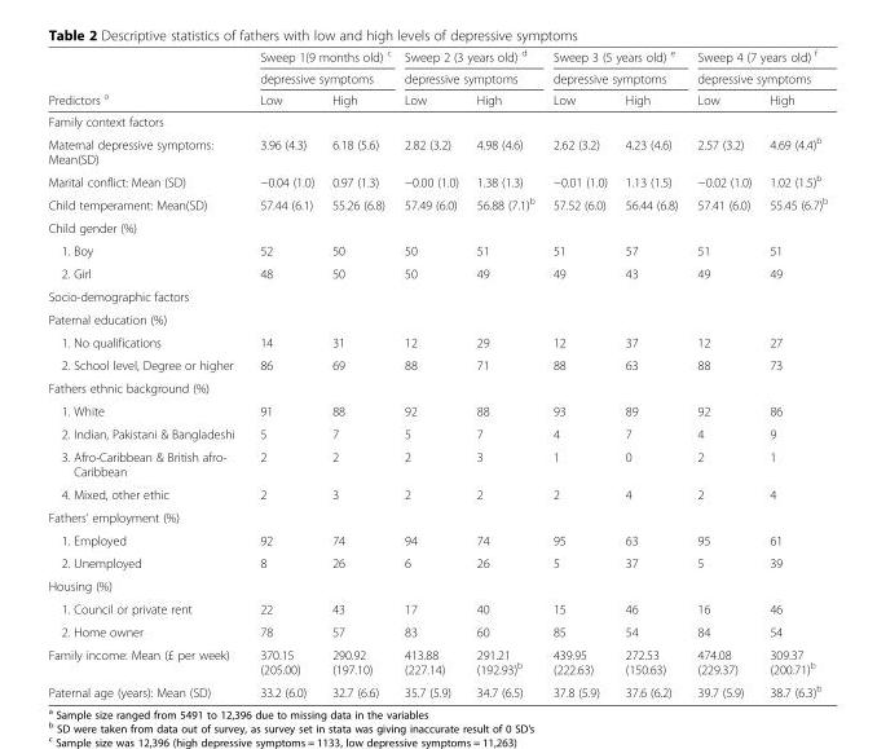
<table><thead><tr><td rowspan="3">Predictors <sup>a</sup></td><td rowspan="2" colspan="2">Sweep 1(9 months old) <sup>c</sup> depressive symptoms</td><td rowspan="2" colspan="2">Sweep 2 (3 years old) <sup>d</sup> depressive symptoms</td><td rowspan="2" colspan="2">Sweep 3 (5 years old) <sup>e</sup> depressive symptoms</td><td rowspan="2" colspan="2">Sweep 4 (7 years old) <sup>f</sup> depressive symptoms</td></tr><tr></tr><tr><td>Low</td><td>High</td><td>Low</td><td>High</td><td>Low</td><td>High</td><td>Low</td><td>High</td></tr></thead><tbody><tr><td colspan="9">Family context factors</td></tr><tr><td>Maternal depressive symptoms: Mean(SD)</td><td>3.96 (4.3)</td><td>6.18 (5.6)</td><td>2.82 (3.2)</td><td>4.98 (4.6)</td><td>2.62 (3.2)</td><td>4.23 (4.6)</td><td>2.57 (3.2)</td><td>4.69 (4.4)<sup>b</sup></td></tr><tr><td>Marital conflict: Mean (SD)</td><td>−0.04 (1.0)</td><td>0.97 (1.3)</td><td>−0.00 (1.0)</td><td>1.38 (1.3)</td><td>−0.01 (1.0)</td><td>1.13 (1.5)</td><td>−0.02 (1.0)</td><td>1.02 (1.5)<sup>b</sup></td></tr><tr><td>Child temperament: Mean(SD)</td><td>57.44 (6.1)</td><td>55.26 (6.8)</td><td>57.49 (6.0)</td><td>56.88 (7.1)<sup>b</sup></td><td>57.52 (6.0)</td><td>56.44 (6.8)</td><td>57.41 (6.0)</td><td>55.45 (6.7)<sup>b</sup></td></tr><tr><td colspan="9">Child gender (%)</td></tr><tr><td>1. Boy</td><td>52</td><td>50</td><td>50</td><td>51</td><td>51</td><td>57</td><td>51</td><td>51</td></tr><tr><td>2. Girl</td><td>48</td><td>50</td><td>50</td><td>49</td><td>49</td><td>43</td><td>49</td><td>49</td></tr><tr><td colspan="9">Socio-demographic factors</td></tr><tr><td colspan="9">Paternal education (%)</td></tr><tr><td>1. No qualifications</td><td>14</td><td>31</td><td>12</td><td>29</td><td>12</td><td>37</td><td>12</td><td>27</td></tr><tr><td>2. School level, Degree or higher</td><td>86</td><td>69</td><td>88</td><td>71</td><td>88</td><td>63</td><td>88</td><td>73</td></tr><tr><td colspan="9">Fathers ethnic background (%)</td></tr><tr><td>1. White</td><td>91</td><td>88</td><td>92</td><td>88</td><td>93</td><td>89</td><td>92</td><td>86</td></tr><tr><td>2. Indian, Pakistani &amp; Bangladeshi</td><td>5</td><td>7</td><td>5</td><td>7</td><td>4</td><td>7</td><td>4</td><td>9</td></tr><tr><td>3. Afro-Caribbean &amp; British afro- Caribbean</td><td>2</td><td>2</td><td>2</td><td>3</td><td>1</td><td>0</td><td>2</td><td>1</td></tr><tr><td>4. Mixed, other ethic</td><td>2</td><td>3</td><td>2</td><td>2</td><td>2</td><td>4</td><td>2</td><td>4</td></tr><tr><td colspan="9">Fathers’ employment (%)</td></tr><tr><td>1. Employed</td><td>92</td><td>74</td><td>94</td><td>74</td><td>95</td><td>63</td><td>95</td><td>61</td></tr><tr><td>2. Unemployed</td><td>8</td><td>26</td><td>6</td><td>26</td><td>5</td><td>37</td><td>5</td><td>39</td></tr><tr><td colspan="9">Housing (%)</td></tr><tr><td>1. Council or private rent</td><td>22</td><td>43</td><td>17</td><td>40</td><td>15</td><td>46</td><td>16</td><td>46</td></tr><tr><td>2. Home owner</td><td>78</td><td>57</td><td>83</td><td>60</td><td>85</td><td>54</td><td>84</td><td>54</td></tr><tr><td>Family income: Mean (£ per week)</td><td>370.15 (205.00)</td><td>290.92 (197.10)</td><td>413.88 (227.14)</td><td>291.21 (192.93)<sup>b</sup></td><td>439.95 (222.63)</td><td>272.53 (150.63)</td><td>474.08 (229.37)</td><td>309.37 (200.71)<sup>b</sup></td></tr><tr><td>Paternal age (years): Mean (SD)</td><td>33.2 (6.0)</td><td>32.7 (6.6)</td><td>35.7 (5.9)</td><td>34.7 (6.5)</td><td>37.8 (5.9)</td><td>37.6 (6.2)</td><td>39.7 (5.9)</td><td>38.7 (6.3)<sup>b</sup></td></tr></tbody></table>